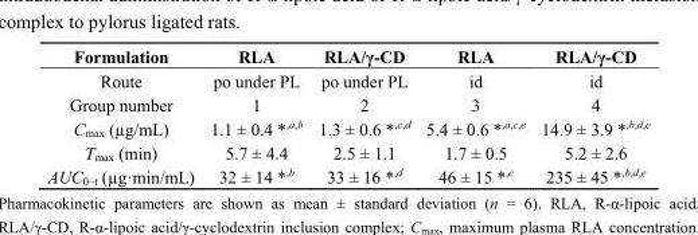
<table><thead><tr><td>Formulation</td><td>RLA</td><td>RLA/γ-CD</td><td>RLA</td><td>RLA/γ-CD</td></tr></thead><tbody><tr><td>Route</td><td>po under PL</td><td>po under PL</td><td>id</td><td>id</td></tr><tr><td>Group number</td><td>1</td><td>2</td><td>3</td><td>4</td></tr><tr><td>C<sub>max</sub> (µg/mL)</td><td>1.1 ± 0.4 *<sup>,a,b</sup></td><td>1.3 ± 0.6 *<sup>,c,d</sup></td><td>5.4 ± 0.6 *<sup>,a,c,e</sup></td><td>14.9 ± 3.9 *<sup>,b,d,e</sup></td></tr><tr><td>T<sub>max</sub> (min)</td><td>5.7 ± 4.4</td><td>2.5 ± 1.1</td><td>1.7 ± 0.5</td><td>5.2 ± 2.6</td></tr><tr><td>AUC<sub>0–t</sub> (µg·min/mL)</td><td>32 ± 14 *<sup>,b</sup></td><td>33 ± 16 *<sup>,d</sup></td><td>46 ± 15 *<sup>,e</sup></td><td>235 ± 45 *<sup>,b,d,e</sup></td></tr></tbody></table>